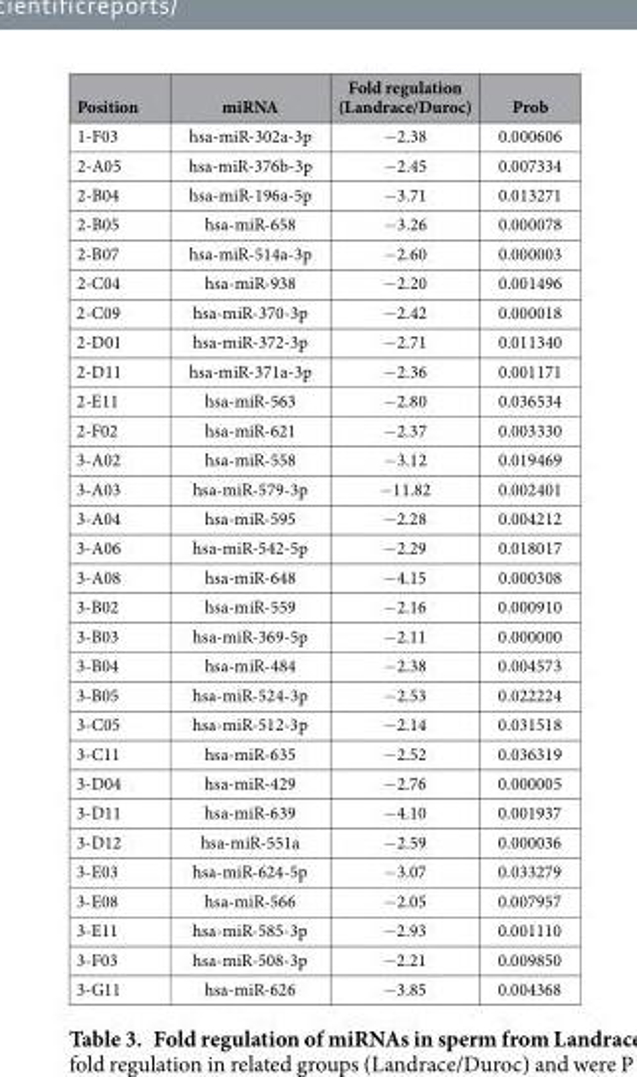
<table><thead><tr><td>Position</td><td>miRNA</td><td>Fold regulation (Landrace/Duroc)</td><td>Prob</td></tr></thead><tbody><tr><td>1-F03</td><td>hsa-miR-302a-3p</td><td>− 2.38</td><td>0.000606</td></tr><tr><td>2-A05</td><td>hsa-miR-376b-3p</td><td>− 2.45</td><td>0.007334</td></tr><tr><td>2-B04</td><td>hsa-miR-196a-5p</td><td>− 3.71</td><td>0.013271</td></tr><tr><td>2-B05</td><td>hsa-miR-658</td><td>− 3.26</td><td>0.000078</td></tr><tr><td>2-B07</td><td>hsa-miR-514a-3p</td><td>− 2.60</td><td>0.000003</td></tr><tr><td>2-C04</td><td>hsa-miR-938</td><td>− 2.20</td><td>0.001496</td></tr><tr><td>2-C09</td><td>hsa-miR-370-3p</td><td>− 2.42</td><td>0.000018</td></tr><tr><td>2-D01</td><td>hsa-miR-372-3p</td><td>− 2.71</td><td>0.011340</td></tr><tr><td>2-D11</td><td>hsa-miR-371a-3p</td><td>− 2.36</td><td>0.001171</td></tr><tr><td>2-E11</td><td>hsa-miR-563</td><td>− 2.80</td><td>0.036534</td></tr><tr><td>2-F02</td><td>hsa-miR-621</td><td>− 2.37</td><td>0.003330</td></tr><tr><td>3-A02</td><td>hsa-miR-558</td><td>− 3.12</td><td>0.019469</td></tr><tr><td>3-A03</td><td>hsa-miR-579-3p</td><td>− 11.82</td><td>0.002401</td></tr><tr><td>3-A04</td><td>hsa-miR-595</td><td>− 2.28</td><td>0.004212</td></tr><tr><td>3-A06</td><td>hsa-miR-542-5p</td><td>− 2.29</td><td>0.018017</td></tr><tr><td>3-A08</td><td>hsa-miR-648</td><td>− 4.15</td><td>0.000308</td></tr><tr><td>3-B02</td><td>hsa-miR-559</td><td>− 2.16</td><td>0.000910</td></tr><tr><td>3-B03</td><td>hsa-miR-369-5p</td><td>− 2.11</td><td>0.000000</td></tr><tr><td>3-B04</td><td>hsa-miR-484</td><td>− 2.38</td><td>0.004573</td></tr><tr><td>3-B05</td><td>hsa-miR-524-3p</td><td>− 2.53</td><td>0.022224</td></tr><tr><td>3-C05</td><td>hsa-miR-512-3p</td><td>− 2.14</td><td>0.031518</td></tr><tr><td>3-C11</td><td>hsa-miR-635</td><td>− 2.52</td><td>0.036319</td></tr><tr><td>3-D04</td><td>hsa-miR-429</td><td>− 2.76</td><td>0.000005</td></tr><tr><td>3-D11</td><td>hsa-miR-639</td><td>− 4.10</td><td>0.001937</td></tr><tr><td>3-D12</td><td>hsa-miR-551a</td><td>− 2.59</td><td>0.000036</td></tr><tr><td>3-E03</td><td>hsa-miR-624-5p</td><td>− 3.07</td><td>0.033279</td></tr><tr><td>3-E08</td><td>hsa-miR-566</td><td>− 2.05</td><td>0.007957</td></tr><tr><td>3-E11</td><td>hsa-miR-585-3p</td><td>− 2.93</td><td>0.001110</td></tr><tr><td>3-F03</td><td>hsa-miR-508-3p</td><td>− 2.21</td><td>0.009850</td></tr><tr><td>3-G11</td><td>hsa-miR-626</td><td>− 3.85</td><td>0.004368</td></tr></tbody></table>